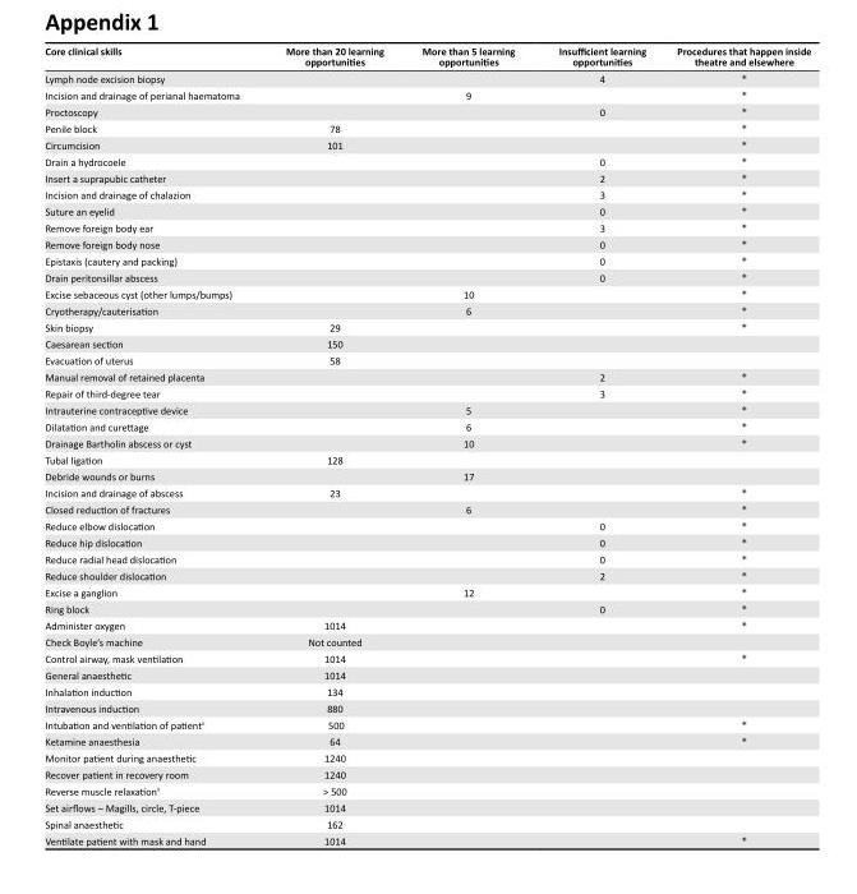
<table><thead><tr><td>Core clinical skills</td><td>More than 20 learning opportunities</td><td>More than 5 learning opportunities</td><td>Insufficient learning opportunities</td><td>Procedures that happen inside theatre and elsewhere</td></tr></thead><tbody><tr><td>Lymph node excision biopsy</td><td></td><td></td><td>4</td><td>*</td></tr><tr><td>Incision and drainage of perianal haematoma</td><td></td><td>9</td><td></td><td>*</td></tr><tr><td>Proctoscopy</td><td></td><td></td><td>0</td><td>*</td></tr><tr><td>Penile block</td><td>78</td><td></td><td></td><td>*</td></tr><tr><td>Circumcision</td><td>101</td><td></td><td></td><td>*</td></tr><tr><td>Drain a hydrocoele</td><td></td><td></td><td>0</td><td>*</td></tr><tr><td>Insert a suprapubic catheter</td><td></td><td></td><td>2</td><td>*</td></tr><tr><td>Incision and drainage of chalazion</td><td></td><td></td><td>3</td><td>*</td></tr><tr><td>Suture an eyelid</td><td></td><td></td><td>0</td><td>*</td></tr><tr><td>Remove foreign body ear</td><td></td><td></td><td>3</td><td>*</td></tr><tr><td>Remove foreign body nose</td><td></td><td></td><td>0</td><td>*</td></tr><tr><td>Epistaxis (cautery and packing)</td><td></td><td></td><td>0</td><td>*</td></tr><tr><td>Drain peritonsillar abscess</td><td></td><td></td><td>0</td><td>*</td></tr><tr><td>Excise sebaceous cyst (other lumps/bumps)</td><td></td><td>10</td><td></td><td>*</td></tr><tr><td>Cryotherapy/cauterisation</td><td></td><td>6</td><td></td><td>*</td></tr><tr><td>Skin biopsy</td><td>29</td><td></td><td></td><td>*</td></tr><tr><td>Caesarean section</td><td>150</td><td></td><td></td><td></td></tr><tr><td>Evacuation of uterus</td><td>58</td><td></td><td></td><td></td></tr><tr><td>Manual removal of retained placenta</td><td></td><td></td><td>2</td><td>*</td></tr><tr><td>Repair of third-degree tear</td><td></td><td></td><td>3</td><td>*</td></tr><tr><td>Intrauterine contraceptive device</td><td></td><td>5</td><td></td><td>*</td></tr><tr><td>Dilatation and curettage</td><td></td><td>6</td><td></td><td>*</td></tr><tr><td>Drainage Bartholin abscess or cyst</td><td></td><td>10</td><td></td><td>*</td></tr><tr><td>Tubal ligation</td><td>128</td><td></td><td></td><td></td></tr><tr><td>Debride wounds or burns</td><td></td><td>17</td><td></td><td></td></tr><tr><td>Incision and drainage of abscess</td><td>23</td><td></td><td></td><td>*</td></tr><tr><td>Closed reduction of fractures</td><td></td><td>6</td><td></td><td>*</td></tr><tr><td>Reduce elbow dislocation</td><td></td><td></td><td>0</td><td>*</td></tr><tr><td>Reduce hip dislocation</td><td></td><td></td><td>0</td><td>*</td></tr><tr><td>Reduce radial head dislocation</td><td></td><td></td><td>0</td><td>*</td></tr><tr><td>Reduce shoulder dislocation</td><td></td><td></td><td>2</td><td>*</td></tr><tr><td>Excise a ganglion</td><td></td><td>12</td><td></td><td>*</td></tr><tr><td>Ring block</td><td></td><td></td><td>0</td><td>*</td></tr><tr><td>Administer oxygen</td><td>1014</td><td></td><td></td><td>*</td></tr><tr><td>Check Boyle’s machine</td><td>Not counted</td><td></td><td></td><td></td></tr><tr><td>Control airway, mask ventilation</td><td>1014</td><td></td><td></td><td>*</td></tr><tr><td>General anaesthetic</td><td>1014</td><td></td><td></td><td></td></tr><tr><td>Inhalation induction</td><td>134</td><td></td><td></td><td></td></tr><tr><td>Intravenous induction</td><td>880</td><td></td><td></td><td></td></tr><tr><td>Intubation and ventilation of patient<sup>#</sup></td><td>500</td><td></td><td></td><td>*</td></tr><tr><td>Ketamine anaesthesia</td><td>64</td><td></td><td></td><td>*</td></tr><tr><td>Monitor patient during anaesthetic</td><td>1240</td><td></td><td></td><td></td></tr><tr><td>Recover patient in recovery room</td><td>1240</td><td></td><td></td><td></td></tr><tr><td>Reverse muscle relaxation<sup>#</sup></td><td>&gt; 500</td><td></td><td></td><td></td></tr><tr><td>Set airflows – Magills, circle, T-piece</td><td>1014</td><td></td><td></td><td></td></tr><tr><td>Spinal anaesthetic</td><td>162</td><td></td><td></td><td></td></tr><tr><td>Ventilate patient with mask and hand</td><td>1014</td><td></td><td></td><td>*</td></tr></tbody></table>